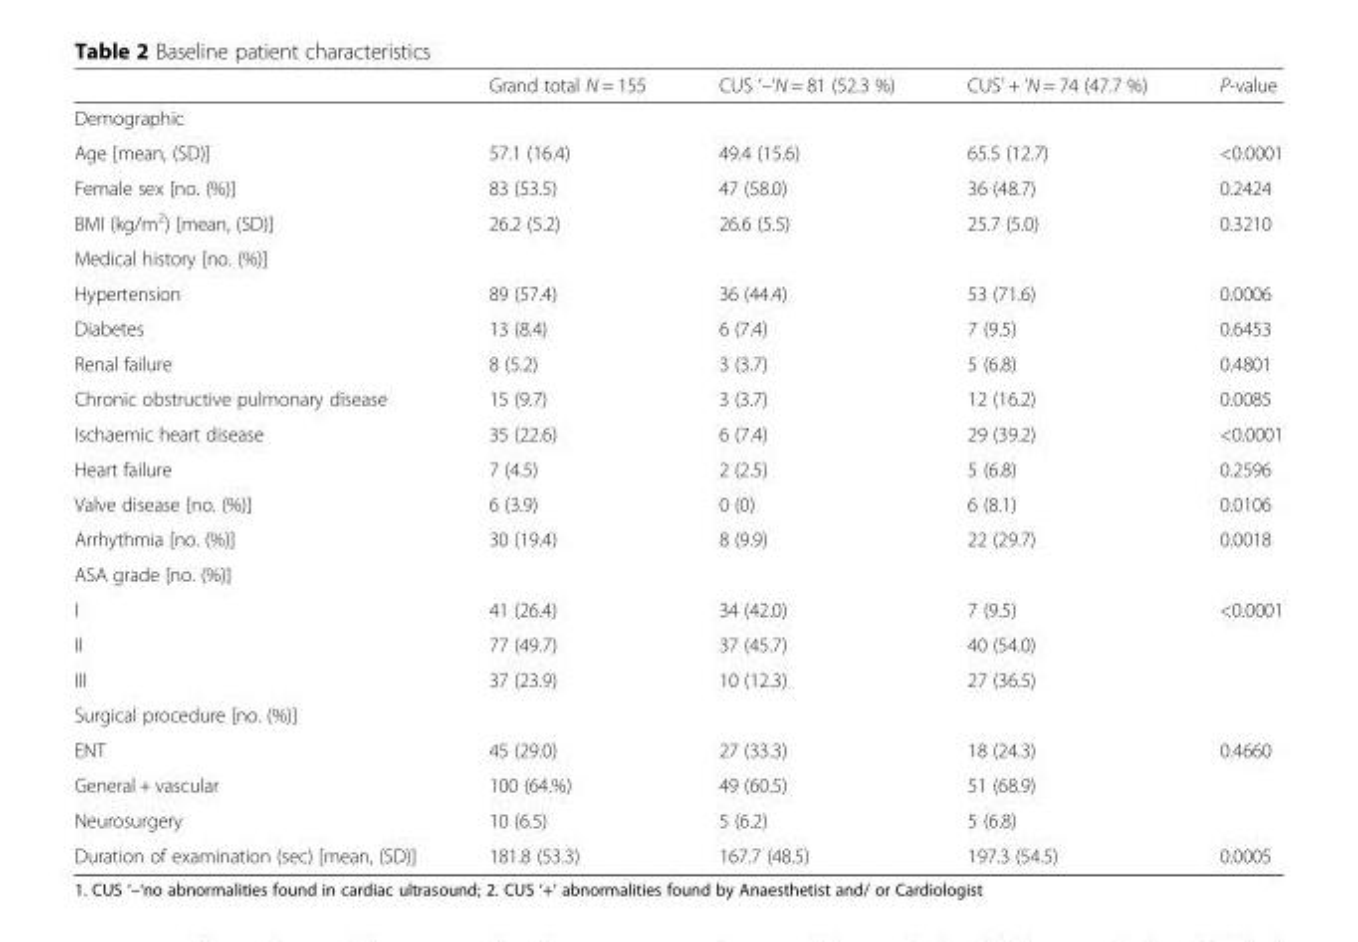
<table><thead><tr><td></td><td>Grand total N = 155</td><td>CUS ‘–‘N = 81 (52.3 %)</td><td>CUS’ + ‘N = 74 (47.7 %)</td><td>P-value</td></tr></thead><tbody><tr><td colspan="5">Demographic</td></tr><tr><td>Age [mean, (SD)]</td><td>57.1 (16.4)</td><td>49.4 (15.6)</td><td>65.5 (12.7)</td><td>&lt;0.0001</td></tr><tr><td>Female sex [no. (%)]</td><td>83 (53.5)</td><td>47 (58.0)</td><td>36 (48.7)</td><td>0.2424</td></tr><tr><td>BMI (kg/m<sup>2</sup>) [mean, (SD)]</td><td>26.2 (5.2)</td><td>26.6 (5.5)</td><td>25.7 (5.0)</td><td>0.3210</td></tr><tr><td colspan="5">Medical history [no. (%)]</td></tr><tr><td>Hypertension</td><td>89 (57.4)</td><td>36 (44.4)</td><td>53 (71.6)</td><td>0.0006</td></tr><tr><td>Diabetes</td><td>13 (8.4)</td><td>6 (7.4)</td><td>7 (9.5)</td><td>0.6453</td></tr><tr><td>Renal failure</td><td>8 (5.2)</td><td>3 (3.7)</td><td>5 (6.8)</td><td>0.4801</td></tr><tr><td>Chronic obstructive pulmonary disease</td><td>15 (9.7)</td><td>3 (3.7)</td><td>12 (16.2)</td><td>0.0085</td></tr><tr><td>Ischaemic heart disease</td><td>35 (22.6)</td><td>6 (7.4)</td><td>29 (39.2)</td><td>&lt;0.0001</td></tr><tr><td>Heart failure</td><td>7 (4.5)</td><td>2 (2.5)</td><td>5 (6.8)</td><td>0.2596</td></tr><tr><td>Valve disease [no. (%)]</td><td>6 (3.9)</td><td>0 (0)</td><td>6 (8.1)</td><td>0.0106</td></tr><tr><td>Arrhythmia [no. (%)]</td><td>30 (19.4)</td><td>8 (9.9)</td><td>22 (29.7)</td><td>0.0018</td></tr><tr><td colspan="5">ASA grade [no. (%)]</td></tr><tr><td>I</td><td>41 (26.4)</td><td>34 (42.0)</td><td>7 (9.5)</td><td rowspan="3">&lt;0.0001</td></tr><tr><td>II</td><td>77 (49.7)</td><td>37 (45.7)</td><td>40 (54.0)</td></tr><tr><td>III</td><td>37 (23.9)</td><td>10 (12.3)</td><td>27 (36.5)</td></tr><tr><td colspan="5">Surgical procedure [no. (%)]</td></tr><tr><td>ENT</td><td>45 (29.0)</td><td>27 (33.3)</td><td>18 (24.3)</td><td rowspan="3">0.4660</td></tr><tr><td>General + vascular</td><td>100 (64.%)</td><td>49 (60.5)</td><td>51 (68.9)</td></tr><tr><td>Neurosurgery</td><td>10 (6.5)</td><td>5 (6.2)</td><td>5 (6.8)</td></tr><tr><td>Duration of examination (sec) [mean, (SD)]</td><td>181.8 (53.3)</td><td>167.7 (48.5)</td><td>197.3 (54.5)</td><td>0.0005</td></tr></tbody></table>